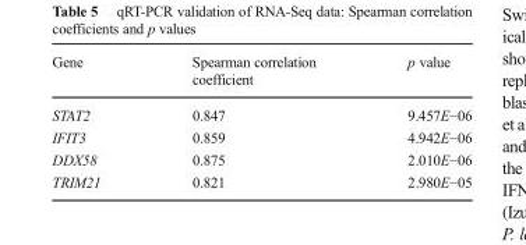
<table><thead><tr><td>Gene</td><td>Spearman correlation coefficient</td><td>p value</td></tr></thead><tbody><tr><td>STAT2</td><td>0.847</td><td>9.457E−06</td></tr><tr><td>IFIT3</td><td>0.859</td><td>4.942E−06</td></tr><tr><td>DDX58</td><td>0.875</td><td>2.010E−06</td></tr><tr><td>TRIM21</td><td>0.821</td><td>2.980E−05</td></tr></tbody></table>